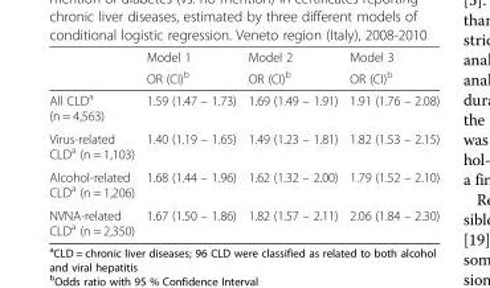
<table><thead><tr><td rowspan="2"></td><td rowspan="2">Model 1 OR (CI)<sup>b</sup></td><td rowspan="2">Model 2 OR (CI)<sup>b</sup></td><td rowspan="2">Model 3 OR (CI)<sup>b</sup></td></tr><tr></tr></thead><tbody><tr><td>All CLD<sup>a</sup> (n = 4,563)</td><td>1.59 (1.47 – 1.73)</td><td>1.69 (1.49 – 1.91)</td><td>1.91 (1.76 – 2.08)</td></tr><tr><td>Virus-related CLD<sup>a</sup> (n = 1,103)</td><td>1.40 (1.19 – 1.65)</td><td>1.49 (1.23 – 1.81)</td><td>1.82 (1.53 – 2.15)</td></tr><tr><td>Alcohol-related CLD<sup>a</sup> (n = 1,206)</td><td>1.68 (1.44 – 1.96)</td><td>1.62 (1.32 – 2.00)</td><td>1.79 (1.52 – 2.10)</td></tr><tr><td>NVNA-related CLD<sup>a</sup> (n = 2,350)</td><td>1.67 (1.50 – 1.86)</td><td>1.82 (1.57 – 2.11)</td><td>2.06 (1.84 – 2.30)</td></tr></tbody></table>